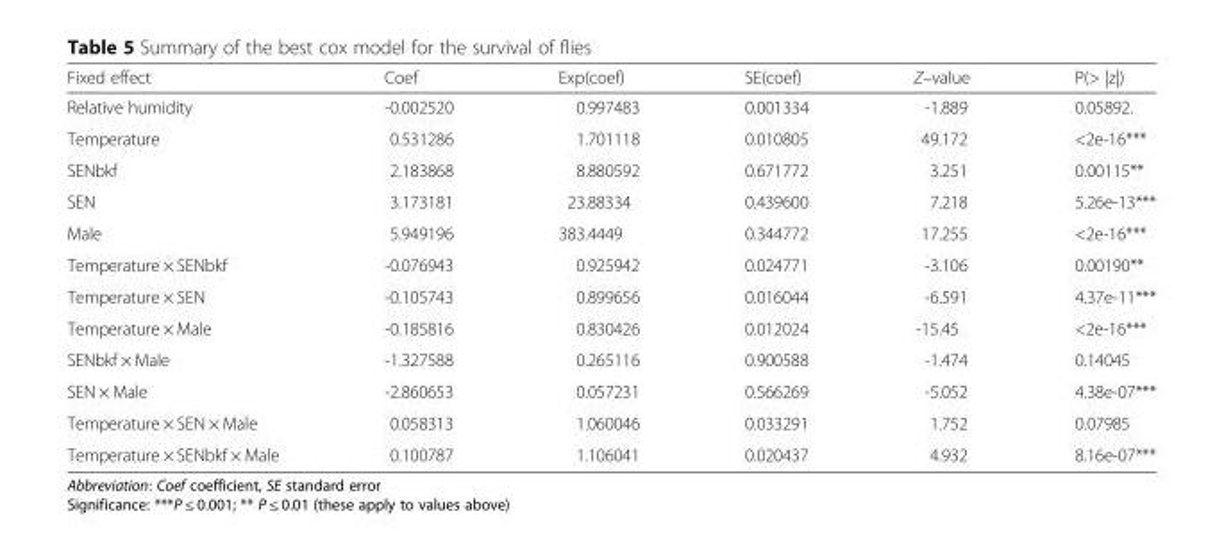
<table><thead><tr><td>Fixed effect</td><td>Coef</td><td>Exp(coef)</td><td>SE(coef)</td><td>Z–value</td><td>P(&gt; |z|)</td></tr></thead><tbody><tr><td>Relative humidity</td><td>-0.002520</td><td>0.997483</td><td>0.001334</td><td>-1.889</td><td>0.05892.</td></tr><tr><td>Temperature</td><td>0.531286</td><td>1.701118</td><td>0.010805</td><td>49.172</td><td>&lt;2e-16***</td></tr><tr><td>SENbkf</td><td>2.183868</td><td>8.880592</td><td>0.671772</td><td>3.251</td><td>0.00115**</td></tr><tr><td>SEN</td><td>3.173181</td><td>23.88334</td><td>0.439600</td><td>7.218</td><td>5.26e-13***</td></tr><tr><td>Male</td><td>5.949196</td><td>383.4449</td><td>0.344772</td><td>17.255</td><td>&lt;2e-16***</td></tr><tr><td>Temperature × SENbkf</td><td>-0.076943</td><td>0.925942</td><td>0.024771</td><td>-3.106</td><td>0.00190**</td></tr><tr><td>Temperature × SEN</td><td>-0.105743</td><td>0.899656</td><td>0.016044</td><td>-6.591</td><td>4.37e-11***</td></tr><tr><td>Temperature × Male</td><td>-0.185816</td><td>0.830426</td><td>0.012024</td><td>-15.45</td><td>&lt;2e-16***</td></tr><tr><td>SENbkf × Male</td><td>-1.327588</td><td>0.265116</td><td>0.900588</td><td>-1.474</td><td>0.14045</td></tr><tr><td>SEN × Male</td><td>-2.860653</td><td>0.057231</td><td>0.566269</td><td>-5.052</td><td>4.38e-07***</td></tr><tr><td>Temperature × SEN × Male</td><td>0.058313</td><td>1.060046</td><td>0.033291</td><td>1.752</td><td>0.07985</td></tr><tr><td>Temperature × SENbkf × Male</td><td>0.100787</td><td>1.106041</td><td>0.020437</td><td>4.932</td><td>8.16e-07***</td></tr></tbody></table>